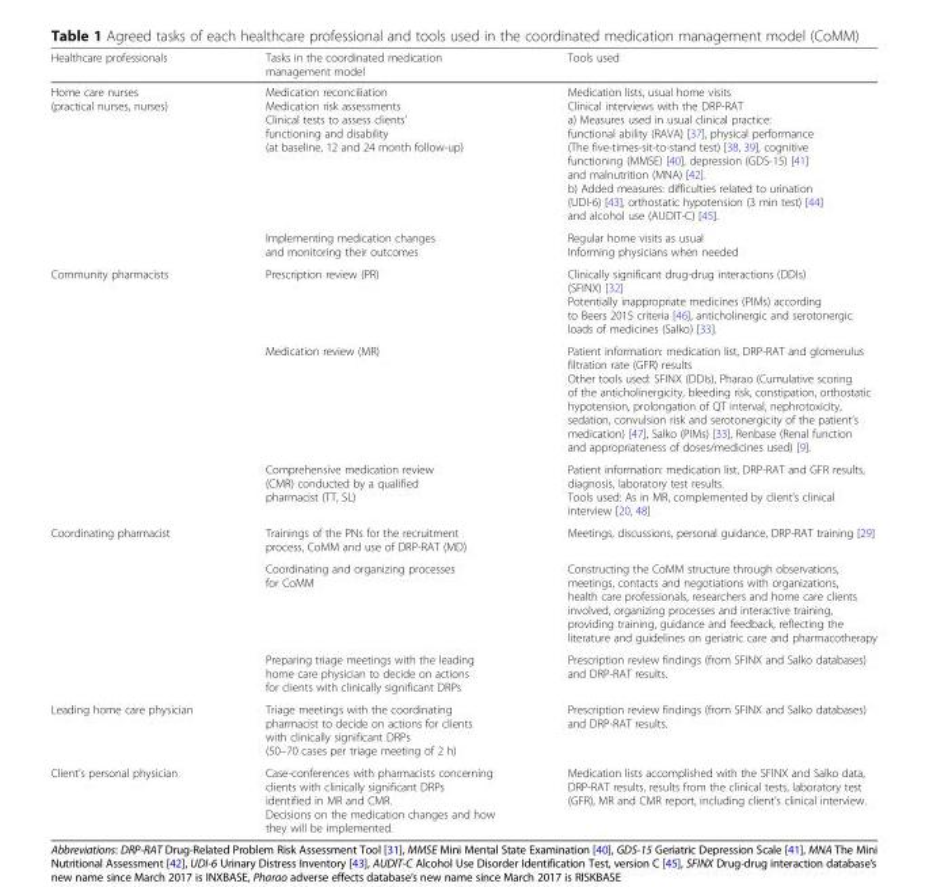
<table><thead><tr><td>Healthcare professionals</td><td>Tasks in the coordinated medication management model</td><td>Tools used</td></tr></thead><tbody><tr><td rowspan="2">Home care nurses (practical nurses, nurses)</td><td>Medication reconciliation Medication risk assessments Clinical tests to assess clients’ functioning and disability (at baseline, 12 and 24 month follow-up)</td><td>Medication lists, usual home visits Clinical interviews with the DRP-RAT a) Measures used in usual clinical practice: functional ability (RAVA) [37], physical performance (The five-times-sit-to-stand test) [38, 39], cognitive functioning (MMSE) [40], depression (GDS-15) [41] and malnutrition (MNA) [42]. b) Added measures: difficulties related to urination (UDI-6) [43], orthostatic hypotension (3 min test) [44] and alcohol use (AUDIT-C) [45].</td></tr><tr><td>Implementing medication changes and monitoring their outcomes</td><td>Regular home visits as usual Informing physicians when needed</td></tr><tr><td rowspan="3">Community pharmacists</td><td>Prescription review (PR)</td><td>Clinically significant drug-drug interactions (DDIs) (SFINX) [32] Potentially inappropriate medicines (PIMs) according to Beers 2015 criteria [46], anticholinergic and serotonergic loads of medicines (Salko) [33].</td></tr><tr><td>Medication review (MR)</td><td>Patient information: medication list, DRP-RAT and glomerulus filtration rate (GFR) results Other tools used: SFINX (DDIs), Pharao (Cumulative scoring of the anticholinergicity, bleeding risk, constipation, orthostatic hypotension, prolongation of QT interval, nephrotoxicity, sedation, convulsion risk and serotonergicity of the patient’s medication) [47], Salko (PIMs) [33], Renbase (Renal function and appropriateness of doses/medicines used) [9].</td></tr><tr><td>Comprehensive medication review (CMR) conducted by a qualified pharmacist (TT, SL)</td><td>Patient information: medication list, DRP-RAT and GFR results, diagnosis, laboratory test results. Tools used: As in MR, complemented by client’s clinical interview [20, 48]</td></tr><tr><td rowspan="3">Coordinating pharmacist</td><td>Trainings of the PNs for the recruitment process, CoMM and use of DRP-RAT (MD)</td><td>Meetings, discussions, personal guidance, DRP-RAT training [29]</td></tr><tr><td>Coordinating and organizing processes for CoMM</td><td>Constructing the CoMM structure through observations, meetings, contacts and negotiations with organizations, health care professionals, researchers and home care clients involved, organizing processes and interactive training, providing training, guidance and feedback, reflecting the literature and guidelines on geriatric care and pharmacotherapy</td></tr><tr><td>Preparing triage meetings with the leading home care physician to decide on actions for clients with clinically significant DRPs</td><td>Prescription review findings (from SFINX and Salko databases) and DRP-RAT results.</td></tr><tr><td>Leading home care physician</td><td>Triage meetings with the coordinating pharmacist to decide on actions for clients with clinically significant DRPs (50–70 cases per triage meeting of 2 h)</td><td>Prescription review findings (from SFINX and Salko databases) and DRP-RAT results.</td></tr><tr><td>Client’s personal physician</td><td>Case-conferences with pharmacists concerning clients with clinically significant DRPs identified in MR and CMR. Decisions on the medication changes and how they will be implemented.</td><td>Medication lists accomplished with the SFINX and Salko data, DRP-RAT results, results from the clinical tests, laboratory test (GFR), MR and CMR report, including client’s clinical interview.</td></tr></tbody></table>